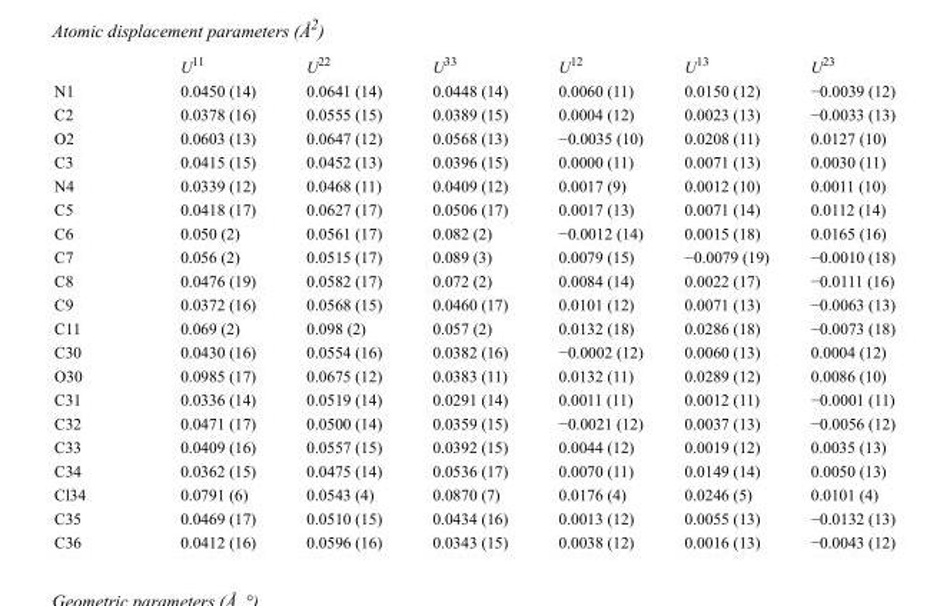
<table><thead><tr><td></td><td>U<sup>11</sup></td><td>U<sup>22</sup></td><td>U<sup>33</sup></td><td>U<sup>12</sup></td><td>U<sup>13</sup></td><td>U<sup>23</sup></td></tr></thead><tbody><tr><td>N1</td><td>0.0450 (14)</td><td>0.0641 (14)</td><td>0.0448 (14)</td><td>0.0060 (11)</td><td>0.0150 (12)</td><td>−0.0039 (12)</td></tr><tr><td>C2</td><td>0.0378 (16)</td><td>0.0555 (15)</td><td>0.0389 (15)</td><td>0.0004 (12)</td><td>0.0023 (13)</td><td>−0.0033 (13)</td></tr><tr><td>O2</td><td>0.0603 (13)</td><td>0.0647 (12)</td><td>0.0568 (13)</td><td>−0.0035 (10)</td><td>0.0208 (11)</td><td>0.0127 (10)</td></tr><tr><td>C3</td><td>0.0415 (15)</td><td>0.0452 (13)</td><td>0.0396 (15)</td><td>0.0000 (11)</td><td>0.0071 (13)</td><td>0.0030 (11)</td></tr><tr><td>N4</td><td>0.0339 (12)</td><td>0.0468 (11)</td><td>0.0409 (12)</td><td>0.0017 (9)</td><td>0.0012 (10)</td><td>0.0011 (10)</td></tr><tr><td>C5</td><td>0.0418 (17)</td><td>0.0627 (17)</td><td>0.0506 (17)</td><td>0.0017 (13)</td><td>0.0071 (14)</td><td>0.0112 (14)</td></tr><tr><td>C6</td><td>0.050 (2)</td><td>0.0561 (17)</td><td>0.082 (2)</td><td>−0.0012 (14)</td><td>0.0015 (18)</td><td>0.0165 (16)</td></tr><tr><td>C7</td><td>0.056 (2)</td><td>0.0515 (17)</td><td>0.089 (3)</td><td>0.0079 (15)</td><td>−0.0079 (19)</td><td>−0.0010 (18)</td></tr><tr><td>C8</td><td>0.0476 (19)</td><td>0.0582 (17)</td><td>0.072 (2)</td><td>0.0084 (14)</td><td>0.0022 (17)</td><td>−0.0111 (16)</td></tr><tr><td>C9</td><td>0.0372 (16)</td><td>0.0568 (15)</td><td>0.0460 (17)</td><td>0.0101 (12)</td><td>0.0071 (13)</td><td>−0.0063 (13)</td></tr><tr><td>C11</td><td>0.069 (2)</td><td>0.098 (2)</td><td>0.057 (2)</td><td>0.0132 (18)</td><td>0.0286 (18)</td><td>−0.0073 (18)</td></tr><tr><td>C30</td><td>0.0430 (16)</td><td>0.0554 (16)</td><td>0.0382 (16)</td><td>−0.0002 (12)</td><td>0.0060 (13)</td><td>0.0004 (12)</td></tr><tr><td>O30</td><td>0.0985 (17)</td><td>0.0675 (12)</td><td>0.0383 (11)</td><td>0.0132 (11)</td><td>0.0289 (12)</td><td>0.0086 (10)</td></tr><tr><td>C31</td><td>0.0336 (14)</td><td>0.0519 (14)</td><td>0.0291 (14)</td><td>0.0011 (11)</td><td>0.0012 (11)</td><td>−0.0001 (11)</td></tr><tr><td>C32</td><td>0.0471 (17)</td><td>0.0500 (14)</td><td>0.0359 (15)</td><td>−0.0021 (12)</td><td>0.0037 (13)</td><td>−0.0056 (12)</td></tr><tr><td>C33</td><td>0.0409 (16)</td><td>0.0557 (15)</td><td>0.0392 (15)</td><td>0.0044 (12)</td><td>0.0019 (12)</td><td>0.0035 (13)</td></tr><tr><td>C34</td><td>0.0362 (15)</td><td>0.0475 (14)</td><td>0.0536 (17)</td><td>0.0070 (11)</td><td>0.0149 (14)</td><td>0.0050 (13)</td></tr><tr><td>Cl34</td><td>0.0791 (6)</td><td>0.0543 (4)</td><td>0.0870 (7)</td><td>0.0176 (4)</td><td>0.0246 (5)</td><td>0.0101 (4)</td></tr><tr><td>C35</td><td>0.0469 (17)</td><td>0.0510 (15)</td><td>0.0434 (16)</td><td>0.0013 (12)</td><td>0.0055 (13)</td><td>−0.0132 (13)</td></tr><tr><td>C36</td><td>0.0412 (16)</td><td>0.0596 (16)</td><td>0.0343 (15)</td><td>0.0038 (12)</td><td>0.0016 (13)</td><td>−0.0043 (12)</td></tr></tbody></table>